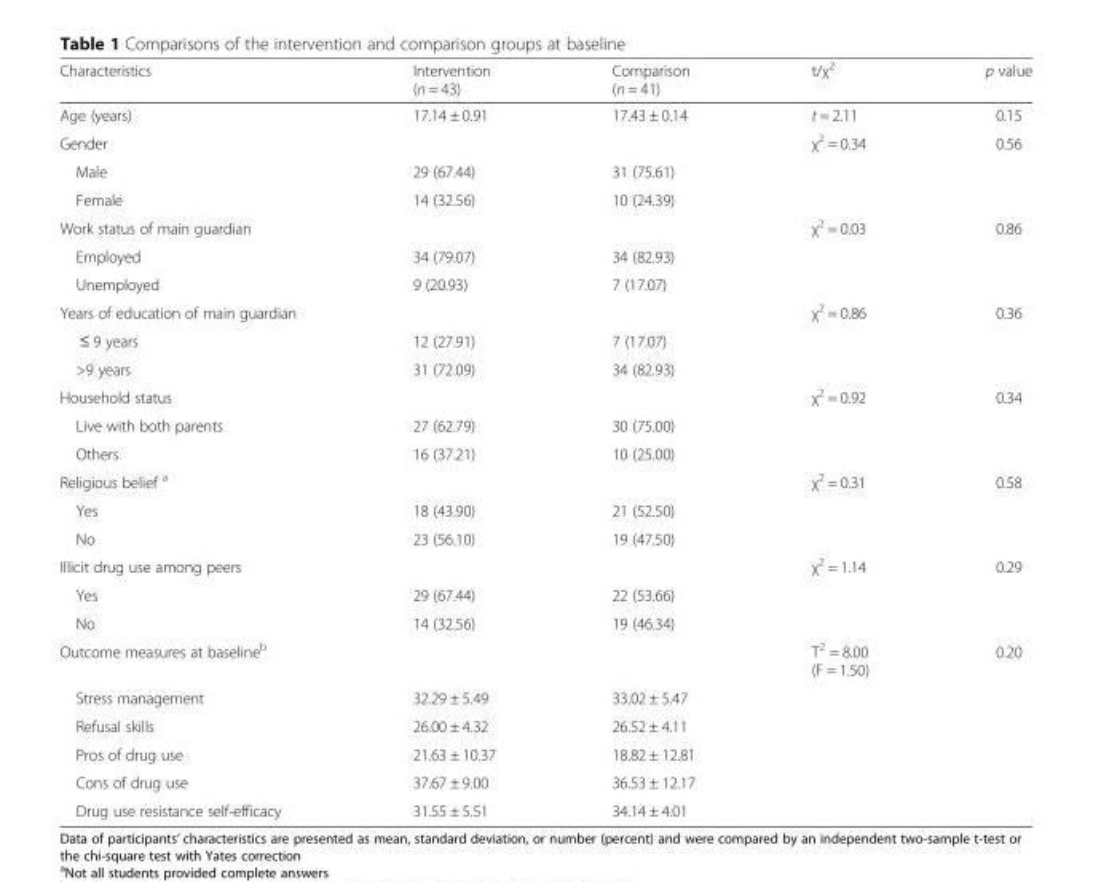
<table><thead><tr><td>Characteristics</td><td>Intervention (n = 43)</td><td>Comparison (n = 41)</td><td>t/χ<sup>2</sup></td><td>p value</td></tr></thead><tbody><tr><td>Age (years)</td><td>17.14 ± 0.91</td><td>17.43 ± 0.14</td><td>t = 2.11</td><td>0.15</td></tr><tr><td>Gender</td><td></td><td></td><td>χ<sup>2</sup> = 0.34</td><td>0.56</td></tr><tr><td>Male</td><td>29 (67.44)</td><td>31 (75.61)</td><td></td><td></td></tr><tr><td>Female</td><td>14 (32.56)</td><td>10 (24.39)</td><td></td><td></td></tr><tr><td>Work status of main guardian</td><td></td><td></td><td>χ<sup>2</sup> = 0.03</td><td>0.86</td></tr><tr><td>Employed</td><td>34 (79.07)</td><td>34 (82.93)</td><td></td><td></td></tr><tr><td>Unemployed</td><td>9 (20.93)</td><td>7 (17.07)</td><td></td><td></td></tr><tr><td>Years of education of main guardian</td><td></td><td></td><td>χ<sup>2</sup> = 0.86</td><td>0.36</td></tr><tr><td>≤ 9 years</td><td>12 (27.91)</td><td>7 (17.07)</td><td></td><td></td></tr><tr><td>&gt;9 years</td><td>31 (72.09)</td><td>34 (82.93)</td><td></td><td></td></tr><tr><td>Household status</td><td></td><td></td><td>χ<sup>2</sup> = 0.92</td><td>0.34</td></tr><tr><td>Live with both parents</td><td>27 (62.79)</td><td>30 (75.00)</td><td></td><td></td></tr><tr><td>Others</td><td>16 (37.21)</td><td>10 (25.00)</td><td></td><td></td></tr><tr><td>Religious belief <sup>a</sup></td><td></td><td></td><td>χ<sup>2</sup> = 0.31</td><td>0.58</td></tr><tr><td>Yes</td><td>18 (43.90)</td><td>21 (52.50)</td><td></td><td></td></tr><tr><td>No</td><td>23 (56.10)</td><td>19 (47.50)</td><td></td><td></td></tr><tr><td>Illicit drug use among peers</td><td></td><td></td><td>χ<sup>2</sup> = 1.14</td><td>0.29</td></tr><tr><td>Yes</td><td>29 (67.44)</td><td>22 (53.66)</td><td></td><td></td></tr><tr><td>No</td><td>14 (32.56)</td><td>19 (46.34)</td><td></td><td></td></tr><tr><td>Outcome measures at baseline<sup>b</sup></td><td></td><td></td><td>T<sup>2</sup> = 8.00 (F = 1.50)</td><td>0.20</td></tr><tr><td>Stress management</td><td>32.29 ± 5.49</td><td>33.02 ± 5.47</td><td></td><td></td></tr><tr><td>Refusal skills</td><td>26.00 ± 4.32</td><td>26.52 ± 4.11</td><td></td><td></td></tr><tr><td>Pros of drug use</td><td>21.63 ± 10.37</td><td>18.82 ± 12.81</td><td></td><td></td></tr><tr><td>Cons of drug use</td><td>37.67 ± 9.00</td><td>36.53 ± 12.17</td><td></td><td></td></tr><tr><td>Drug use resistance self-efficacy</td><td>31.55 ± 5.51</td><td>34.14 ± 4.01</td><td></td><td></td></tr></tbody></table>